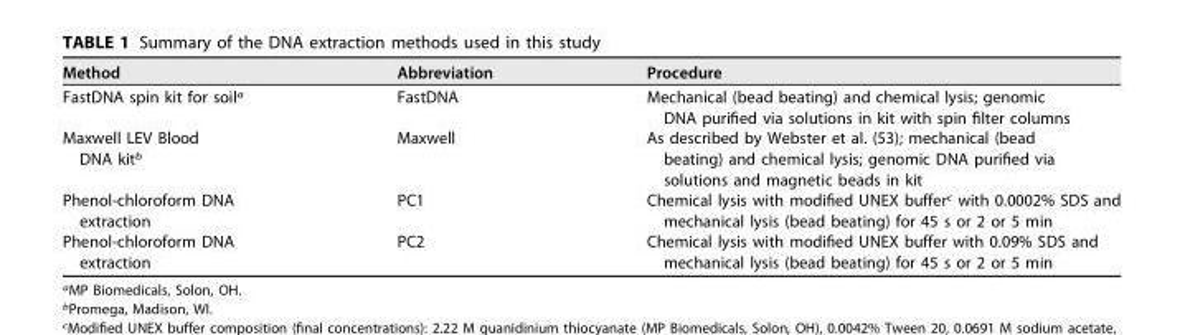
<table><thead><tr><td>Method</td><td>Abbreviation</td><td>Procedure</td></tr></thead><tbody><tr><td>FastDNA spin kit for soil<sup>a</sup></td><td>FastDNA</td><td>Mechanical (bead beating) and chemical lysis; genomic DNA purified via solutions in kit with spin filter columns</td></tr><tr><td>Maxwell LEV Blood DNA kit<sup>b</sup></td><td>Maxwell</td><td>As described by Webster et al. (53); mechanical (bead beating) and chemical lysis; genomic DNA purified via solutions and magnetic beads in kit</td></tr><tr><td>Phenol-chloroform DNA extraction</td><td>PC1</td><td>Chemical lysis with modified UNEX buffer<sup>c</sup> with 0.0002% SDS and mechanical lysis (bead beating) for 45 s or 2 or 5 min</td></tr><tr><td>Phenol-chloroform DNA extraction</td><td>PC2</td><td>Chemical lysis with modified UNEX buffer with 0.09% SDS and mechanical lysis (bead beating) for 45 s or 2 or 5 min</td></tr></tbody></table>